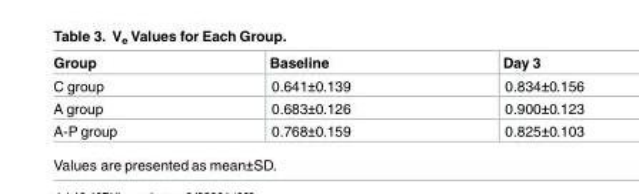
<table><thead><tr><td>Group</td><td>Baseline</td><td>Day 3</td></tr></thead><tbody><tr><td>C group</td><td>0.641±0.139</td><td>0.834±0.156</td></tr><tr><td>A group</td><td>0.683±0.126</td><td>0.900±0.123</td></tr><tr><td>A-P group</td><td>0.768±0.159</td><td>0.825±0.103</td></tr></tbody></table>